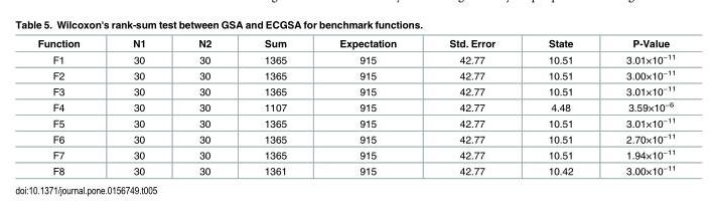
<table><thead><tr><td>Function</td><td>N1</td><td>N2</td><td>Sum</td><td>Expectation</td><td>Std. Error</td><td>State</td><td>P-Value</td></tr></thead><tbody><tr><td>F1</td><td>30</td><td>30</td><td>1365</td><td>915</td><td>42.77</td><td>10.51</td><td>3.01×10<sup>−11</sup></td></tr><tr><td>F2</td><td>30</td><td>30</td><td>1365</td><td>915</td><td>42.77</td><td>10.51</td><td>3.00×10<sup>−11</sup></td></tr><tr><td>F3</td><td>30</td><td>30</td><td>1365</td><td>915</td><td>42.77</td><td>10.51</td><td>3.01×10<sup>−11</sup></td></tr><tr><td>F4</td><td>30</td><td>30</td><td>1107</td><td>915</td><td>42.77</td><td>4.48</td><td>3.59×10<sup>−6</sup></td></tr><tr><td>F5</td><td>30</td><td>30</td><td>1365</td><td>915</td><td>42.77</td><td>10.51</td><td>3.01×10<sup>−11</sup></td></tr><tr><td>F6</td><td>30</td><td>30</td><td>1365</td><td>915</td><td>42.77</td><td>10.51</td><td>2.70×10<sup>−11</sup></td></tr><tr><td>F7</td><td>30</td><td>30</td><td>1365</td><td>915</td><td>42.77</td><td>10.51</td><td>1.94×10<sup>−11</sup></td></tr><tr><td>F8</td><td>30</td><td>30</td><td>1361</td><td>915</td><td>42.77</td><td>10.42</td><td>3.00×10<sup>−11</sup></td></tr></tbody></table>